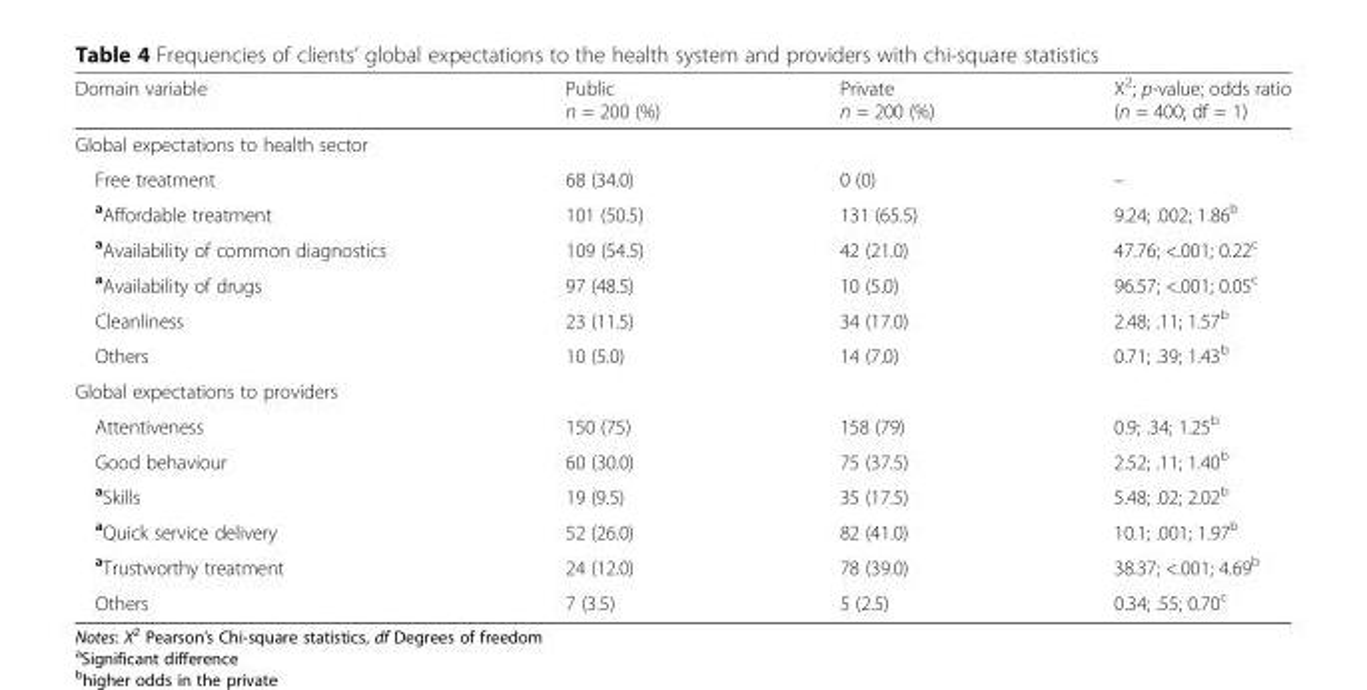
<table><thead><tr><td>Domain variable</td><td>Public n = 200 (%)</td><td>Private n = 200 (%)</td><td>Χ<sup>2</sup>; p-value; odds ratio (n = 400; df = 1)</td></tr></thead><tbody><tr><td colspan="4">Global expectations to health sector</td></tr><tr><td>Free treatment</td><td>68 (34.0)</td><td>0 (0)</td><td>–</td></tr><tr><td><sup>a</sup>Affordable treatment</td><td>101 (50.5)</td><td>131 (65.5)</td><td>9.24; .002; 1.86<sup>b</sup></td></tr><tr><td><sup>a</sup>Availability of common diagnostics</td><td>109 (54.5)</td><td>42 (21.0)</td><td>47.76; &lt;.001; 0.22<sup>c</sup></td></tr><tr><td><sup>a</sup>Availability of drugs</td><td>97 (48.5)</td><td>10 (5.0)</td><td>96.57; &lt;.001; 0.05<sup>c</sup></td></tr><tr><td>Cleanliness</td><td>23 (11.5)</td><td>34 (17.0)</td><td>2.48; .11; 1.57<sup>b</sup></td></tr><tr><td>Others</td><td>10 (5.0)</td><td>14 (7.0)</td><td>0.71; .39; 1.43<sup>b</sup></td></tr><tr><td colspan="4">Global expectations to providers</td></tr><tr><td>Attentiveness</td><td>150 (75)</td><td>158 (79)</td><td>0.9; .34; 1.25<sup>b</sup></td></tr><tr><td>Good behaviour</td><td>60 (30.0)</td><td>75 (37.5)</td><td>2.52; .11; 1.40<sup>b</sup></td></tr><tr><td><sup>a</sup>Skills</td><td>19 (9.5)</td><td>35 (17.5)</td><td>5.48; .02; 2.02<sup>b</sup></td></tr><tr><td><sup>a</sup>Quick service delivery</td><td>52 (26.0)</td><td>82 (41.0)</td><td>10.1; .001; 1.97<sup>b</sup></td></tr><tr><td><sup>a</sup>Trustworthy treatment</td><td>24 (12.0)</td><td>78 (39.0)</td><td>38.37; &lt;.001; 4.69<sup>b</sup></td></tr><tr><td>Others</td><td>7 (3.5)</td><td>5 (2.5)</td><td>0.34; .55; 0.70<sup>c</sup></td></tr></tbody></table>